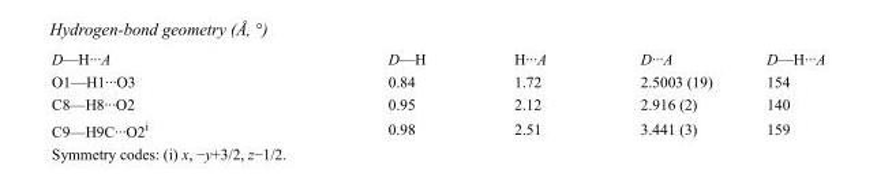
<table><tbody><tr><td>D—H···A</td><td>D—H</td><td>H···A</td><td>D···A</td><td>D—H···A</td></tr><tr><td>O1—H1···O3</td><td>0.84</td><td>1.72</td><td>2.5003 (19)</td><td>154</td></tr><tr><td>C8—H8···O2</td><td>0.95</td><td>2.12</td><td>2.916 (2)</td><td>140</td></tr><tr><td>C9—H9C···O2<sup>i</sup></td><td>0.98</td><td>2.51</td><td>3.441 (3)</td><td>159</td></tr></tbody></table>